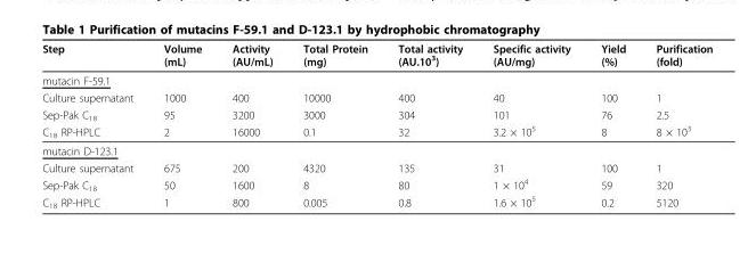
<table><thead><tr><td>Step</td><td>Volume (mL)</td><td>Activity (AU/mL)</td><td>Total Protein (mg)</td><td>Total activity (AU.10<sup>3</sup>)</td><td>Specific activity (AU/mg)</td><td>Yield (%)</td><td>Purification (fold)</td></tr></thead><tbody><tr><td colspan="8">mutacin F-59.1</td></tr><tr><td>Culture supernatant</td><td>1000</td><td>400</td><td>10000</td><td>400</td><td>40</td><td>100</td><td>1</td></tr><tr><td>Sep-Pak C<sub>18</sub></td><td>95</td><td>3200</td><td>3000</td><td>304</td><td>101</td><td>76</td><td>2.5</td></tr><tr><td>C<sub>18</sub> RP-HPLC</td><td>2</td><td>16000</td><td>0.1</td><td>32</td><td>3.2 × 10<sup>5</sup></td><td>8</td><td>8 × 10<sup>3</sup></td></tr><tr><td colspan="8">mutacin D-123.1</td></tr><tr><td>Culture supernatant</td><td>675</td><td>200</td><td>4320</td><td>135</td><td>31</td><td>100</td><td>1</td></tr><tr><td>Sep-Pak C<sub>18</sub></td><td>50</td><td>1600</td><td>8</td><td>80</td><td>1 × 10<sup>4</sup></td><td>59</td><td>320</td></tr><tr><td>C<sub>18</sub> RP-HPLC</td><td>1</td><td>800</td><td>0.005</td><td>0.8</td><td>1.6 × 10<sup>5</sup></td><td>0.2</td><td>5120</td></tr></tbody></table>